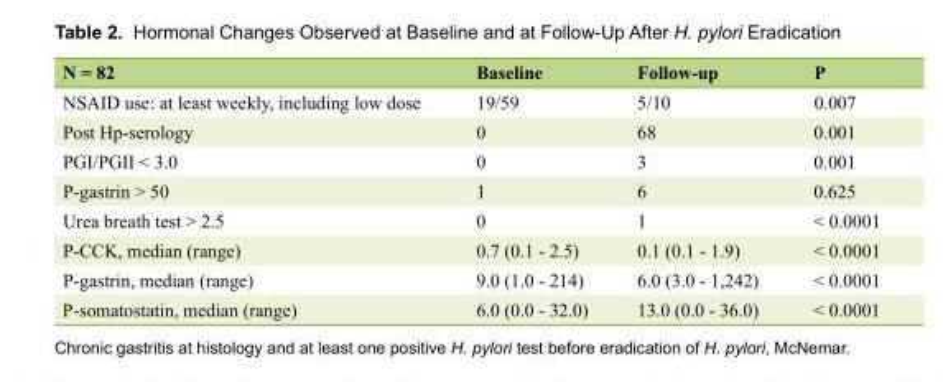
<table><thead><tr><td>N = 82</td><td>Baseline</td><td>Follow-up</td><td>P</td></tr></thead><tbody><tr><td>NSAID use: at least weekly, including low dose</td><td>19/59</td><td>5/10</td><td>0.007</td></tr><tr><td>Post Hp-serology</td><td>0</td><td>68</td><td>0.001</td></tr><tr><td>PGI/PGII &lt; 3.0</td><td>0</td><td>3</td><td>0.001</td></tr><tr><td>P-gastrin &gt; 50</td><td>1</td><td>6</td><td>0.625</td></tr><tr><td>Urea breath test &gt; 2.5</td><td>0</td><td>1</td><td>&lt; 0.0001</td></tr><tr><td>P-CCK, median (range)</td><td>0.7 (0.1 - 2.5)</td><td>0.1 (0.1 - 1.9)</td><td>&lt; 0.0001</td></tr><tr><td>P-gastrin, median (range)</td><td>9.0 (1.0 - 214)</td><td>6.0 (3.0 - 1,242)</td><td>&lt; 0.0001</td></tr><tr><td>P-somatostatin, median (range)</td><td>6.0 (0.0 - 32.0)</td><td>13.0 (0.0 - 36.0)</td><td>&lt; 0.0001</td></tr></tbody></table>